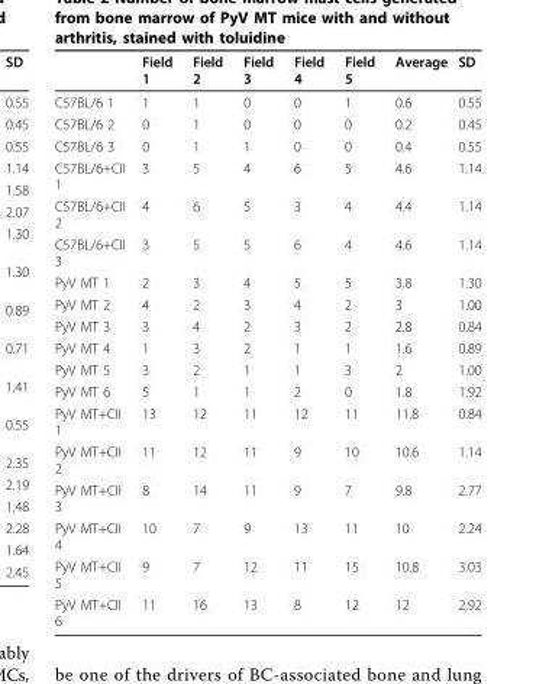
<table><thead><tr><td></td><td>Field 1</td><td>Field 2</td><td>Field 3</td><td>Field 4</td><td>Field 5</td><td>Average</td><td>SD</td></tr></thead><tbody><tr><td>C57BL/6 1</td><td>1</td><td>1</td><td>0</td><td>0</td><td>1</td><td>0.6</td><td>0.55</td></tr><tr><td>C57BL/6 2</td><td>0</td><td>1</td><td>0</td><td>0</td><td>0</td><td>0.2</td><td>0.45</td></tr><tr><td>C57BL/6 3</td><td>0</td><td>1</td><td>1</td><td>0</td><td>0</td><td>0.4</td><td>0.55</td></tr><tr><td>C57BL/6+CII 1</td><td>3</td><td>5</td><td>4</td><td>6</td><td>5</td><td>4.6</td><td>1.14</td></tr><tr><td>C57BL/6+CII 2</td><td>4</td><td>6</td><td>5</td><td>3</td><td>4</td><td>4.4</td><td>1.14</td></tr><tr><td>C57BL/6+CII 3</td><td>3</td><td>5</td><td>5</td><td>6</td><td>4</td><td>4.6</td><td>1.14</td></tr><tr><td>PyV MT 1</td><td>2</td><td>3</td><td>4</td><td>5</td><td>5</td><td>3.8</td><td>1.30</td></tr><tr><td>PyV MT 2</td><td>4</td><td>2</td><td>3</td><td>4</td><td>2</td><td>3</td><td>1.00</td></tr><tr><td>PyV MT 3</td><td>3</td><td>4</td><td>2</td><td>3</td><td>2</td><td>2.8</td><td>0.84</td></tr><tr><td>PyV MT 4</td><td>1</td><td>3</td><td>2</td><td>1</td><td>1</td><td>1.6</td><td>0.89</td></tr><tr><td>PyV MT 5</td><td>3</td><td>2</td><td>1</td><td>1</td><td>3</td><td>2</td><td>1.00</td></tr><tr><td>PyV MT 6</td><td>5</td><td>1</td><td>1</td><td>2</td><td>0</td><td>1.8</td><td>1.92</td></tr><tr><td>PyV MT+CII 1</td><td>13</td><td>12</td><td>11</td><td>12</td><td>11</td><td>11.8</td><td>0.84</td></tr><tr><td>PyV MT+CII 2</td><td>11</td><td>12</td><td>11</td><td>9</td><td>10</td><td>10.6</td><td>1.14</td></tr><tr><td>PyV MT+CII 3</td><td>8</td><td>14</td><td>11</td><td>9</td><td>7</td><td>9.8</td><td>2.77</td></tr><tr><td>PyV MT+CII 4</td><td>10</td><td>7</td><td>9</td><td>13</td><td>11</td><td>10</td><td>2.24</td></tr><tr><td>PyV MT+CII 5</td><td>9</td><td>7</td><td>12</td><td>11</td><td>15</td><td>10.8</td><td>3.03</td></tr><tr><td>PyV MT+CII 6</td><td>11</td><td>16</td><td>13</td><td>8</td><td>12</td><td>12</td><td>2.92</td></tr></tbody></table>